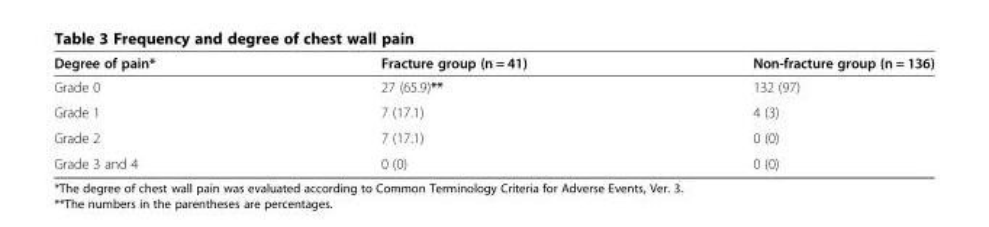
<table><thead><tr><td>Degree of pain*</td><td>Fracture group (n = 41)</td><td>Non-fracture group (n = 136)</td></tr></thead><tbody><tr><td>Grade 0</td><td>27 (65.9)**</td><td>132 (97)</td></tr><tr><td>Grade 1</td><td>7 (17.1)</td><td>4 (3)</td></tr><tr><td>Grade 2</td><td>7 (17.1)</td><td>0 (0)</td></tr><tr><td>Grade 3 and 4</td><td>0 (0)</td><td>0 (0)</td></tr></tbody></table>